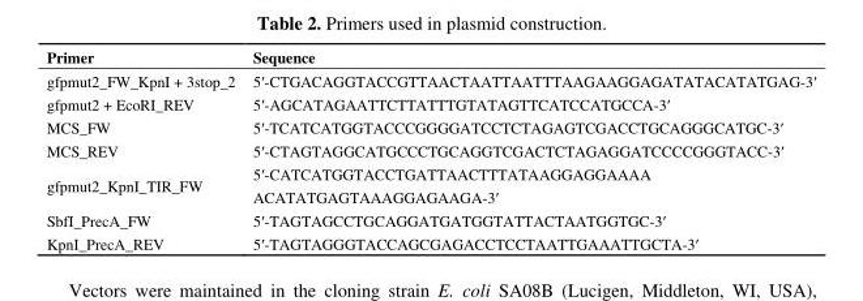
<table><thead><tr><td>Primer</td><td>Sequence</td></tr></thead><tbody><tr><td>gfpmut2_FW_KpnI + 3stop_2</td><td>5′-CTGACAGGTACCGTTAACTAATTAATTTAAGAAGGAGATATACATATGAG-3′</td></tr><tr><td>gfpmut2 + EcoRI_REV</td><td>5′-AGCATAGAATTCTTATTTGTATAGTTCATCCATGCCA-3′</td></tr><tr><td>MCS_FW</td><td>5′-TCATCATGGTACCCGGGGATCCTCTAGAGTCGACCTGCAGGGCATGC-3′</td></tr><tr><td>MCS_REV</td><td>5′-CTAGTAGGCATGCCCTGCAGGTCGACTCTAGAGGATCCCCGGGTACC-3′</td></tr><tr><td>gfpmut2_KpnI_TIR_FW</td><td>5′-CATCATGGTACCTGATTAACTTTATAAGGAGGAAAA ACATATGAGTAAAGGAGAAGA-3′</td></tr><tr><td>SbfI_PrecA_FW</td><td>5′-TAGTAGCCTGCAGGATGATGGTATTACTAATGGTGC-3′</td></tr><tr><td>KpnI_PrecA_REV</td><td>5′-TAGTAGGGTACCAGCGAGACCTCCTAATTGAAATTGCTA-3′</td></tr></tbody></table>